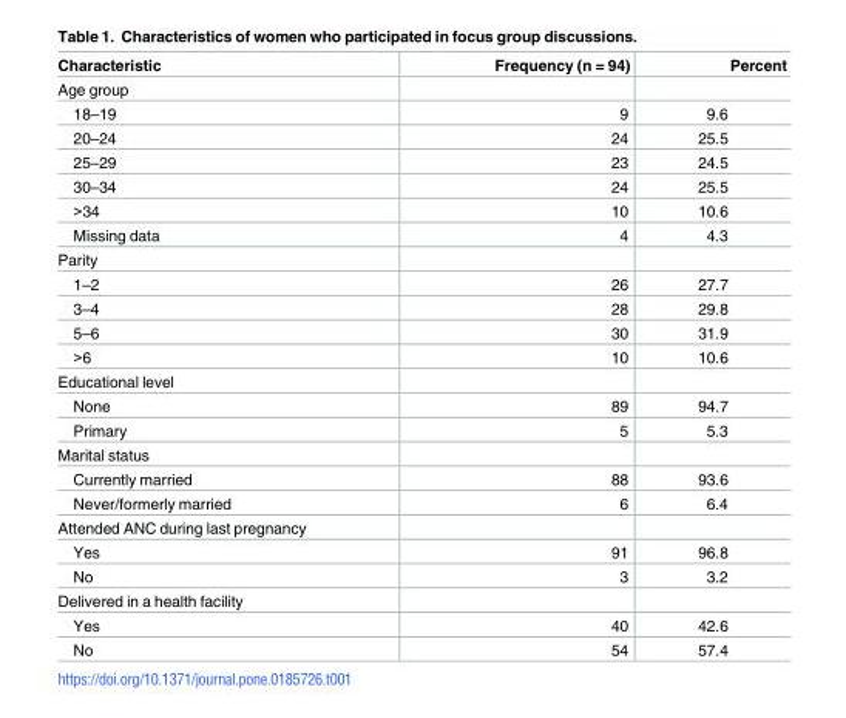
<table><thead><tr><td>Characteristic</td><td>Frequency (n = 94)</td><td>Percent</td></tr></thead><tbody><tr><td colspan="3">Age group</td></tr><tr><td>18–19</td><td>9</td><td>9.6</td></tr><tr><td>20–24</td><td>24</td><td>25.5</td></tr><tr><td>25–29</td><td>23</td><td>24.5</td></tr><tr><td>30–34</td><td>24</td><td>25.5</td></tr><tr><td>&gt;34</td><td>10</td><td>10.6</td></tr><tr><td>Missing data</td><td>4</td><td>4.3</td></tr><tr><td colspan="3">Parity</td></tr><tr><td>1–2</td><td>26</td><td>27.7</td></tr><tr><td>3–4</td><td>28</td><td>29.8</td></tr><tr><td>5–6</td><td>30</td><td>31.9</td></tr><tr><td>&gt;6</td><td>10</td><td>10.6</td></tr><tr><td colspan="3">Educational level</td></tr><tr><td>None</td><td>89</td><td>94.7</td></tr><tr><td>Primary</td><td>5</td><td>5.3</td></tr><tr><td colspan="3">Marital status</td></tr><tr><td>Currently married</td><td>88</td><td>93.6</td></tr><tr><td>Never/formerly married</td><td>6</td><td>6.4</td></tr><tr><td colspan="3">Attended ANC during last pregnancy</td></tr><tr><td>Yes</td><td>91</td><td>96.8</td></tr><tr><td>No</td><td>3</td><td>3.2</td></tr><tr><td colspan="3">Delivered in a health facility</td></tr><tr><td>Yes</td><td>40</td><td>42.6</td></tr><tr><td>No</td><td>54</td><td>57.4</td></tr></tbody></table>